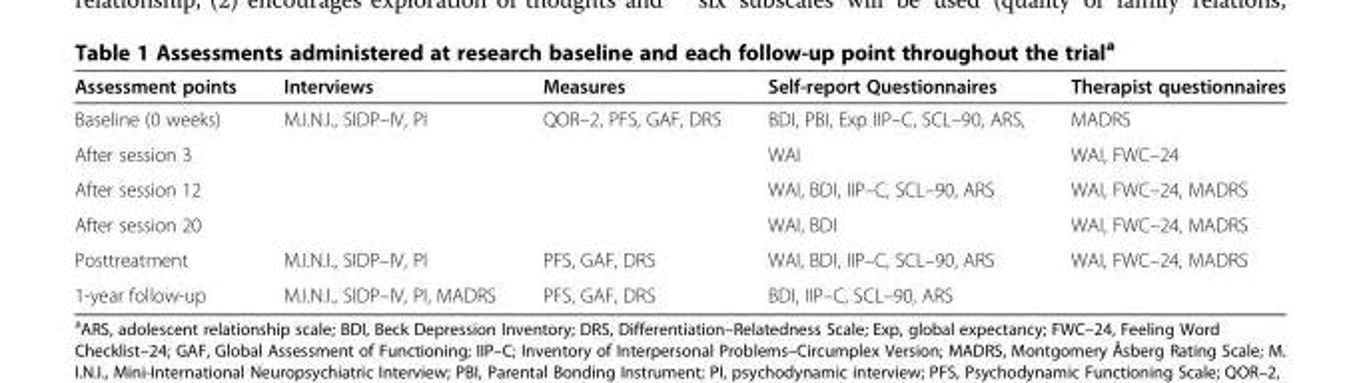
<table><thead><tr><td>Assessment points</td><td>Interviews</td><td>Measures</td><td>Self-report Questionnaires</td><td>Therapist questionnaires</td></tr></thead><tbody><tr><td>Baseline (0 weeks)</td><td>M.I.N.I., SIDP–IV, PI</td><td>QOR–2, PFS, GAF, DRS</td><td>BDI, PBI, Exp IIP–C, SCL–90, ARS,</td><td>MADRS</td></tr><tr><td>After session 3</td><td></td><td></td><td>WAI</td><td>WAI, FWC–24</td></tr><tr><td>After session 12</td><td></td><td></td><td>WAI, BDI, IIP–C, SCL–90, ARS</td><td>WAI, FWC–24, MADRS</td></tr><tr><td>After session 20</td><td></td><td></td><td>WAI, BDI</td><td>WAI, FWC–24, MADRS</td></tr><tr><td>Posttreatment</td><td>M.I.N.I., SIDP–IV, PI</td><td>PFS, GAF, DRS</td><td>WAI, BDI, IIP–C, SCL–90, ARS</td><td>WAI, FWC–24, MADRS</td></tr><tr><td>1-year follow-up</td><td>M.I.N.I., SIDP–IV, PI, MADRS</td><td>PFS, GAF, DRS</td><td>BDI, IIP–C, SCL–90, ARS</td><td></td></tr></tbody></table>